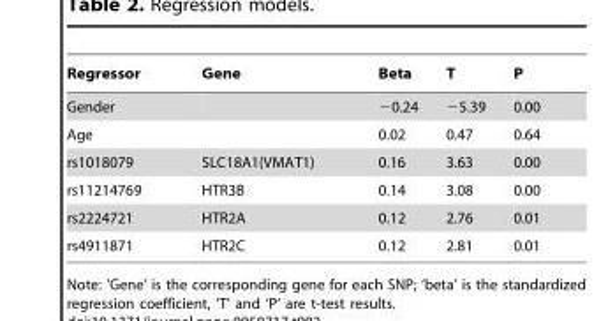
<table><thead><tr><td>Regressor</td><td>Gene</td><td>Beta</td><td>T</td><td>P</td></tr></thead><tbody><tr><td>Gender</td><td></td><td>−0.24</td><td>−5.39</td><td>0.00</td></tr><tr><td>Age</td><td></td><td>0.02</td><td>0.47</td><td>0.64</td></tr><tr><td>rs1018079</td><td>SLC18A1(VMAT1)</td><td>0.16</td><td>3.63</td><td>0.00</td></tr><tr><td>rs11214769</td><td>HTR3B</td><td>0.14</td><td>3.08</td><td>0.00</td></tr><tr><td>rs2224721</td><td>HTR2A</td><td>0.12</td><td>2.76</td><td>0.01</td></tr><tr><td>rs4911871</td><td>HTR2C</td><td>0.12</td><td>2.81</td><td>0.01</td></tr></tbody></table>